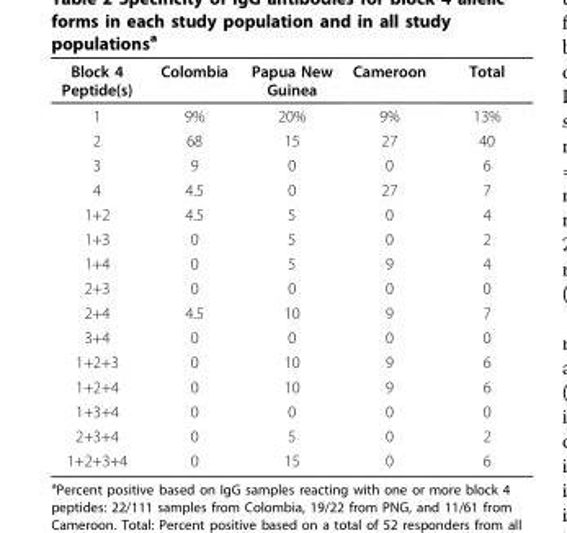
<table><thead><tr><td>Block 4 Peptide(s)</td><td>Colombia</td><td>Papua New Guinea</td><td>Cameroon</td><td>Total</td></tr></thead><tbody><tr><td>1</td><td>9%</td><td>20%</td><td>9%</td><td>13%</td></tr><tr><td>2</td><td>68</td><td>15</td><td>27</td><td>40</td></tr><tr><td>3</td><td>9</td><td>0</td><td>0</td><td>6</td></tr><tr><td>4</td><td>4.5</td><td>0</td><td>27</td><td>7</td></tr><tr><td>1+2</td><td>4.5</td><td>5</td><td>0</td><td>4</td></tr><tr><td>1+3</td><td>0</td><td>5</td><td>0</td><td>2</td></tr><tr><td>1+4</td><td>0</td><td>5</td><td>9</td><td>4</td></tr><tr><td>2+3</td><td>0</td><td>0</td><td>0</td><td>0</td></tr><tr><td>2+4</td><td>4.5</td><td>10</td><td>9</td><td>7</td></tr><tr><td>3+4</td><td>0</td><td>0</td><td>0</td><td>0</td></tr><tr><td>1+2+3</td><td>0</td><td>10</td><td>9</td><td>6</td></tr><tr><td>1+2+4</td><td>0</td><td>10</td><td>9</td><td>6</td></tr><tr><td>1+3+4</td><td>0</td><td>0</td><td>0</td><td>0</td></tr><tr><td>2+3+4</td><td>0</td><td>5</td><td>0</td><td>2</td></tr><tr><td>1+2+3+4</td><td>0</td><td>15</td><td>0</td><td>6</td></tr></tbody></table>